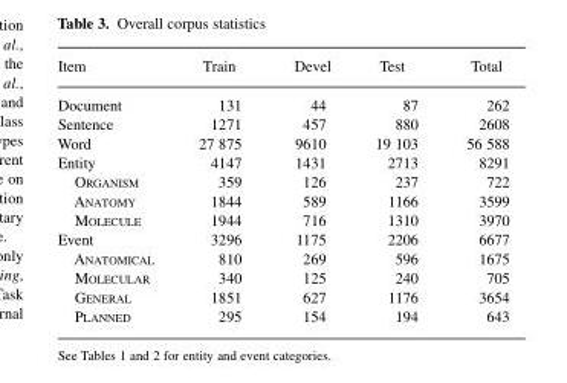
<table><thead><tr><td>Item</td><td>Train</td><td>Devel</td><td>Test</td><td>Total</td></tr></thead><tbody><tr><td>Document</td><td>131</td><td>44</td><td>87</td><td>262</td></tr><tr><td>Sentence</td><td>1271</td><td>457</td><td>880</td><td>2608</td></tr><tr><td>Word</td><td>27 875</td><td>9610</td><td>19 103</td><td>56 588</td></tr><tr><td>Entity</td><td>4147</td><td>1431</td><td>2713</td><td>8291</td></tr><tr><td>Organism</td><td>359</td><td>126</td><td>237</td><td>722</td></tr><tr><td>Anatomy</td><td>1844</td><td>589</td><td>1166</td><td>3599</td></tr><tr><td>Molecule</td><td>1944</td><td>716</td><td>1310</td><td>3970</td></tr><tr><td>Event</td><td>3296</td><td>1175</td><td>2206</td><td>6677</td></tr><tr><td>Anatomical</td><td>810</td><td>269</td><td>596</td><td>1675</td></tr><tr><td>Molecular</td><td>340</td><td>125</td><td>240</td><td>705</td></tr><tr><td>General</td><td>1851</td><td>627</td><td>1176</td><td>3654</td></tr><tr><td>Planned</td><td>295</td><td>154</td><td>194</td><td>643</td></tr></tbody></table>